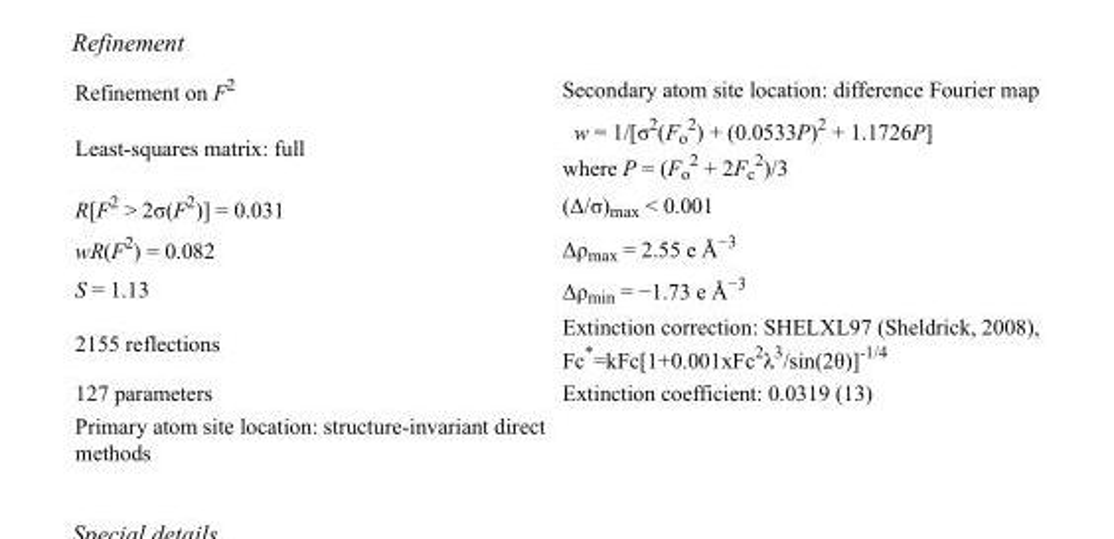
<table><tbody><tr><td>Refinement on F<sup>2</sup></td><td>Secondary atom site location: difference Fourier map</td></tr><tr><td>Least-squares matrix: full</td><td>w = 1/[σ<sup>2</sup>(F<sub>o</sub> <sup>2</sup>) + (0.0533P)<sup>2</sup> + 1.1726P] where P = (F<sub>o</sub> <sup>2</sup> + 2F<sub>c</sub> <sup>2</sup>)/3</td></tr><tr><td>R[F<sup>2</sup> &gt; 2σ(F<sup>2</sup>)] = 0.031</td><td>(Δ/σ)<sub>max</sub> &lt; 0.001</td></tr><tr><td>wR(F<sup>2</sup>) = 0.082</td><td>Δρ<sub>max</sub> = 2.55 e Å<sup>−3</sup></td></tr><tr><td>S = 1.13</td><td>Δρ<sub>min</sub> = −1.73 e Å<sup>−3</sup></td></tr><tr><td>2155 reflections</td><td>Extinction correction: SHELXL97 (Sheldrick, 2008), Fc*=kFc[1+0.001xFc<sup>2</sup>λ<sup>3</sup>/sin(2θ)]<sup>-1/4</sup></td></tr><tr><td>127 parameters</td><td>Extinction coefficient: 0.0319 (13)</td></tr><tr><td>Primary atom site location: structure-invariant direct methods</td><td></td></tr></tbody></table>